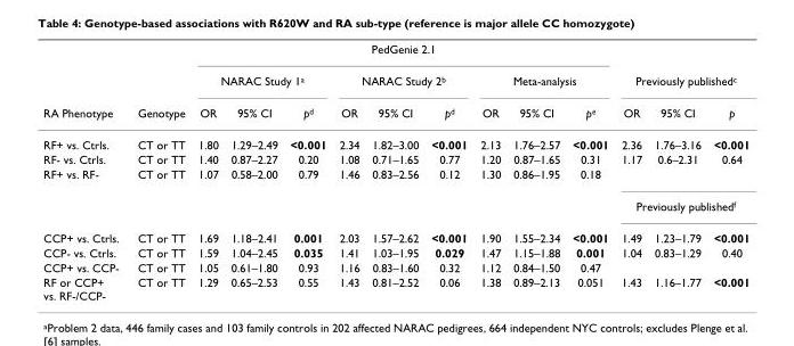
<table><thead><tr><td rowspan="3">RA Phenotype</td><td rowspan="3">Genotype</td><td colspan="9">PedGenie 2.1</td><td></td><td></td><td></td></tr><tr><td colspan="3">NARAC Study 1<sup>a</sup></td><td colspan="3">NARAC Study 2<sup>b</sup></td><td colspan="3">Meta-analysis</td><td colspan="3">Previously published<sup>c</sup></td></tr><tr><td>OR</td><td>95% CI</td><td>p<sup>d</sup></td><td>OR</td><td>95% CI</td><td>p<sup>d</sup></td><td>OR</td><td>95% CI</td><td>p<sup>e</sup></td><td>OR</td><td>95% CI</td><td>p</td></tr></thead><tbody><tr><td>RF+ vs. Ctrls.</td><td>CT or TT</td><td>1.80</td><td>1.29–2.49</td><td>&lt;0.001</td><td>2.34</td><td>1.82–3.00</td><td>&lt;0.001</td><td>2.13</td><td>1.76–2.57</td><td>&lt;0.001</td><td>2.36</td><td>1.76–3.16</td><td>&lt;0.001</td></tr><tr><td>RF- vs. Ctrls.</td><td>CT or TT</td><td>1.40</td><td>0.87–2.27</td><td>0.20</td><td>1.08</td><td>0.71–1.65</td><td>0.77</td><td>1.20</td><td>0.87–1.65</td><td>0.31</td><td>1.17</td><td>0.6–2.31</td><td>0.64</td></tr><tr><td rowspan="2">RF+ vs. RF-</td><td>CT or TT</td><td>1.07</td><td>0.58–2.00</td><td>0.79</td><td>1.46</td><td>0.83–2.56</td><td>0.12</td><td>1.30</td><td>0.86–1.95</td><td>0.18</td><td></td><td></td><td></td></tr><tr><td></td><td></td><td></td><td></td><td></td><td></td><td></td><td></td><td></td><td></td><td colspan="3">Previously published<sup>f</sup></td></tr><tr><td>CCP+ vs. Ctrls.</td><td>CT or TT</td><td>1.69</td><td>1.18–2.41</td><td>0.001</td><td>2.03</td><td>1.57–2.62</td><td>&lt;0.001</td><td>1.90</td><td>1.55–2.34</td><td>&lt;0.001</td><td>1.49</td><td>1.23–1.79</td><td>&lt;0.001</td></tr><tr><td>CCP- vs. Ctrls.</td><td>CT or TT</td><td>1.59</td><td>1.04–2.45</td><td>0.035</td><td>1.41</td><td>1.03–1.95</td><td>0.029</td><td>1.47</td><td>1.15–1.88</td><td>0.001</td><td>1.04</td><td>0.83–1.29</td><td>0.40</td></tr><tr><td>CCP+ vs. CCP-</td><td>CT or TT</td><td>1.05</td><td>0.61–1.80</td><td>0.93</td><td>1.16</td><td>0.83–1.60</td><td>0.32</td><td>1.12</td><td>0.84–1.50</td><td>0.47</td><td></td><td></td><td></td></tr><tr><td>RF or CCP+ vs. RF-/CCP-</td><td>CT or TT</td><td>1.29</td><td>0.65–2.53</td><td>0.55</td><td>1.43</td><td>0.81–2.52</td><td>0.06</td><td>1.38</td><td>0.89–2.13</td><td>0.051</td><td>1.43</td><td>1.16–1.77</td><td>&lt;0.001</td></tr></tbody></table>